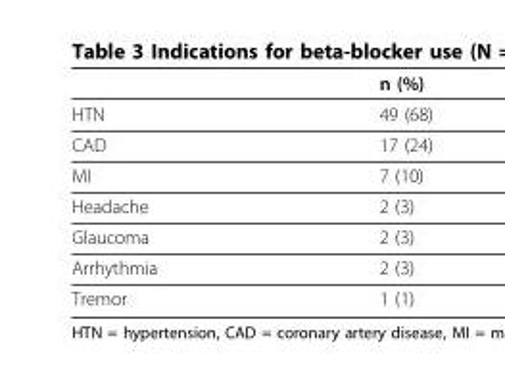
<table><thead><tr><td></td><td>n (%)</td></tr></thead><tbody><tr><td>HTN</td><td>49 (68)</td></tr><tr><td>CAD</td><td>17 (24)</td></tr><tr><td>MI</td><td>7 (10)</td></tr><tr><td>Headache</td><td>2 (3)</td></tr><tr><td>Glaucoma</td><td>2 (3)</td></tr><tr><td>Arrhythmia</td><td>2 (3)</td></tr><tr><td>Tremor</td><td>1 (1)</td></tr></tbody></table>